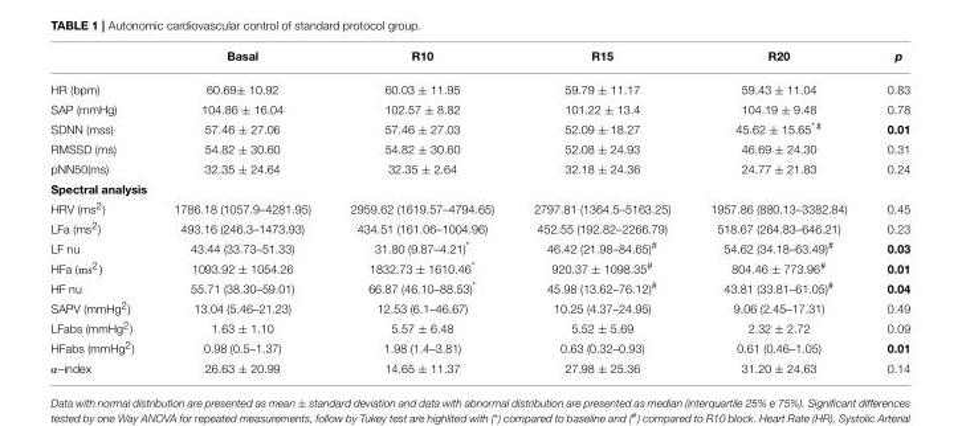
<table><thead><tr><td></td><td>Basal</td><td>R10</td><td>R15</td><td>R20</td><td>p</td></tr></thead><tbody><tr><td>HR (bpm)</td><td>60.69± 10.92</td><td>60.03 ± 11.95</td><td>59.79 ± 11.17</td><td>59.43 ± 11.04</td><td>0.83</td></tr><tr><td>SAP (mmHg)</td><td>104.86 ± 16.04</td><td>102.57 ± 8.82</td><td>101.22 ± 13.4</td><td>104.19 ± 9.48</td><td>0.78</td></tr><tr><td>SDNN (mss)</td><td>57.46 ± 27.06</td><td>57.46 ± 27.03</td><td>52.09 ± 18.27</td><td>45.62 ± 15.65<sup>*#</sup></td><td>0.01</td></tr><tr><td>RMSSD (ms)</td><td>54.82 ± 30.60</td><td>54.82 ± 30.60</td><td>52.08 ± 24.93</td><td>46.69 ± 24.30</td><td>0.31</td></tr><tr><td>pNN50(ms)</td><td>32.35 ± 24.64</td><td>32.35 ± 2.64</td><td>32.18 ± 24.36</td><td>24.77 ± 21.83</td><td>0.24</td></tr><tr><td colspan="6">Spectral analysis</td></tr><tr><td>HRV (ms<sup>2</sup>)</td><td>1786.18 (1057.9–4281.95)</td><td>2959.62 (1619.57–4794.65)</td><td>2797.81 (1364.5–5163.25)</td><td>1957.86 (880.13–3382.84)</td><td>0.45</td></tr><tr><td>LFa (ms<sup>2</sup>)</td><td>493.16 (246.3–1473.93)</td><td>434.51 (161.06–1004.96)</td><td>452.55 (192.82–2266.79)</td><td>518.67 (264.83–646.21)</td><td>0.23</td></tr><tr><td>LF nu</td><td>43.44 (33.73–51.33)</td><td>31.80 (9.87–4.21)*</td><td>46.42 (21.98–84.65)<sup>#</sup></td><td>54.62 (34.18–63.49)<sup>#</sup></td><td>0.03</td></tr><tr><td>HFa (ms<sup>2</sup>)</td><td>1093.92 ± 1054.26</td><td>1832.73 ± 1610.46*</td><td>920.37 ± 1098.35<sup>#</sup></td><td>804.46 ± 773.96<sup>#</sup></td><td>0.01</td></tr><tr><td>HF nu</td><td>55.71 (38.30–59.01)</td><td>66.87 (46.10–88.53)*</td><td>45.98 (13.62–76.12)<sup>#</sup></td><td>43.81 (33.81–61.05)<sup>#</sup></td><td>0.04</td></tr><tr><td>SAPV (mmHg<sup>2</sup>)</td><td>13.04 (5.46–21.23)</td><td>12.53 (6.1–46.67)</td><td>10.25 (4.37–24.95)</td><td>9.06 (2.45–17.31)</td><td>0.49</td></tr><tr><td>LFabs (mmHg<sup>2</sup>)</td><td>1.63 ± 1.10</td><td>5.57 ± 6.48</td><td>5.52 ± 5.69</td><td>2.32 ± 2.72</td><td>0.09</td></tr><tr><td>HFabs (mmHg<sup>2</sup>)</td><td>0.98 (0.5–1.37)</td><td>1.98 (1.4–3.81)</td><td>0.63 (0.32–0.93)</td><td>0.61 (0.46–1.05)</td><td>0.01</td></tr><tr><td>α–index</td><td>26.63 ± 20.99</td><td>14.65 ± 11.37</td><td>27.98 ± 25.36</td><td>31.20 ± 24.63</td><td>0.14</td></tr></tbody></table>